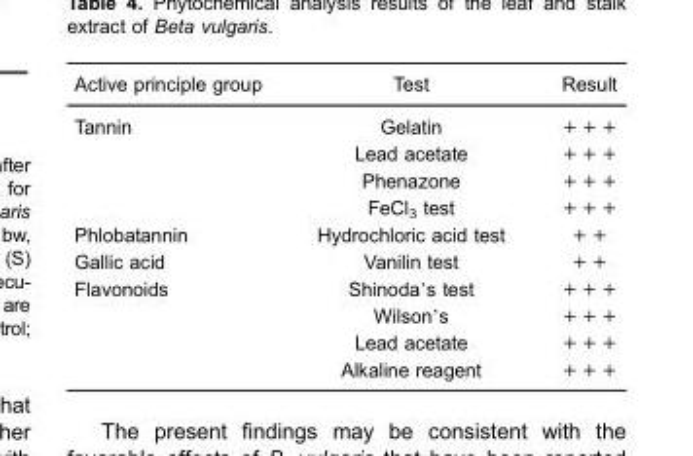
<table><thead><tr><td>Active principle group</td><td>Test</td><td>Result</td></tr></thead><tbody><tr><td rowspan="4">Tannin</td><td>Gelatin</td><td>+++</td></tr><tr><td>Lead acetate</td><td>+++</td></tr><tr><td>Phenazone</td><td>+++</td></tr><tr><td>FeCl<sub>3</sub> test</td><td>+++</td></tr><tr><td>Phlobatannin</td><td>Hydrochloric acid test</td><td>++</td></tr><tr><td>Gallic acid</td><td>Vanilin test</td><td>++</td></tr><tr><td rowspan="4">Flavonoids</td><td>Shinoda’s test</td><td>+++</td></tr><tr><td>Wilson’s</td><td>+++</td></tr><tr><td>Lead acetate</td><td>+++</td></tr><tr><td>Alkaline reagent</td><td>+++</td></tr></tbody></table>